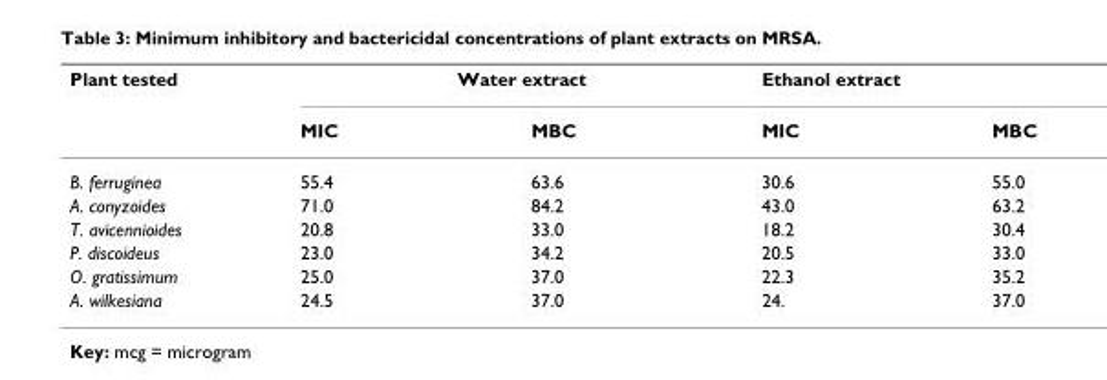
<table><thead><tr><td rowspan="2">Plant tested</td><td colspan="2">Water extract</td><td colspan="2">Ethanol extract</td></tr><tr><td>MIC</td><td>MBC</td><td>MIC</td><td>MBC</td></tr></thead><tbody><tr><td>B. ferruginea</td><td>55.4</td><td>63.6</td><td>30.6</td><td>55.0</td></tr><tr><td>A. conyzoides</td><td>71.0</td><td>84.2</td><td>43.0</td><td>63.2</td></tr><tr><td>T. avicennioides</td><td>20.8</td><td>33.0</td><td>18.2</td><td>30.4</td></tr><tr><td>P. discoideus</td><td>23.0</td><td>34.2</td><td>20.5</td><td>33.0</td></tr><tr><td>O. gratissimum</td><td>25.0</td><td>37.0</td><td>22.3</td><td>35.2</td></tr><tr><td>A. wilkesiana</td><td>24.5</td><td>37.0</td><td>24.</td><td>37.0</td></tr></tbody></table>